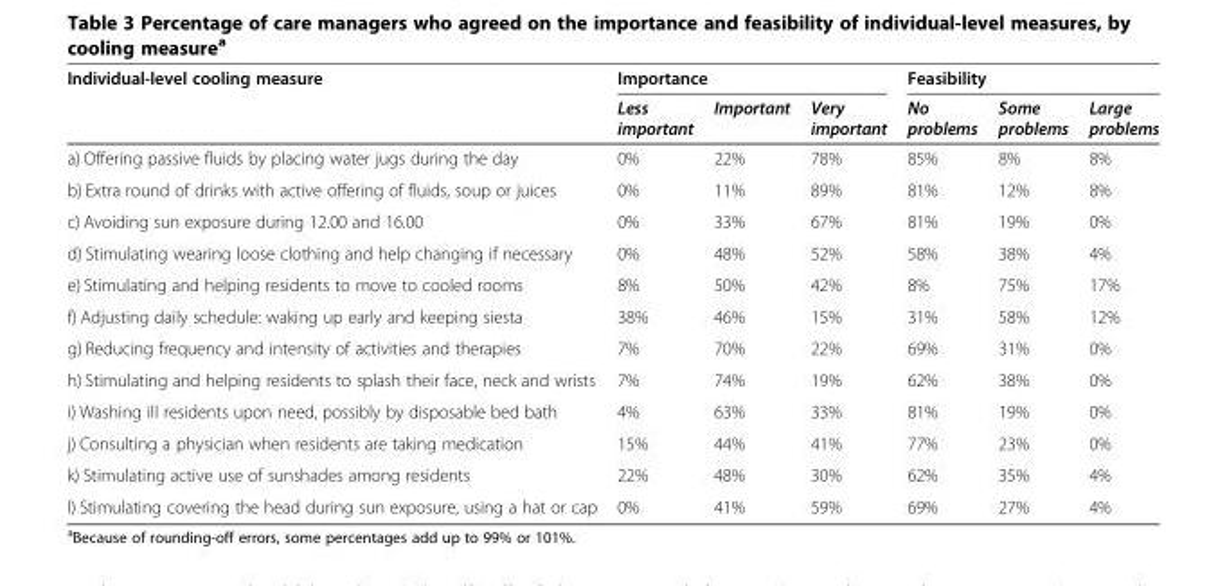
<table><thead><tr><td rowspan="2">Individual-level cooling measure</td><td colspan="3">Importance</td><td colspan="3">Feasibility</td></tr><tr><td>Less important</td><td>Important</td><td>Very important</td><td>No problems</td><td>Some problems</td><td>Large problems</td></tr></thead><tbody><tr><td>a) Offering passive fluids by placing water jugs during the day</td><td>0%</td><td>22%</td><td>78%</td><td>85%</td><td>8%</td><td>8%</td></tr><tr><td>b) Extra round of drinks with active offering of fluids, soup or juices</td><td>0%</td><td>11%</td><td>89%</td><td>81%</td><td>12%</td><td>8%</td></tr><tr><td>c) Avoiding sun exposure during 12.00 and 16.00</td><td>0%</td><td>33%</td><td>67%</td><td>81%</td><td>19%</td><td>0%</td></tr><tr><td>d) Stimulating wearing loose clothing and help changing if necessary</td><td>0%</td><td>48%</td><td>52%</td><td>58%</td><td>38%</td><td>4%</td></tr><tr><td>e) Stimulating and helping residents to move to cooled rooms</td><td>8%</td><td>50%</td><td>42%</td><td>8%</td><td>75%</td><td>17%</td></tr><tr><td>f) Adjusting daily schedule: waking up early and keeping siesta</td><td>38%</td><td>46%</td><td>15%</td><td>31%</td><td>58%</td><td>12%</td></tr><tr><td>g) Reducing frequency and intensity of activities and therapies</td><td>7%</td><td>70%</td><td>22%</td><td>69%</td><td>31%</td><td>0%</td></tr><tr><td>h) Stimulating and helping residents to splash their face, neck and wrists</td><td>7%</td><td>74%</td><td>19%</td><td>62%</td><td>38%</td><td>0%</td></tr><tr><td>i) Washing ill residents upon need, possibly by disposable bed bath</td><td>4%</td><td>63%</td><td>33%</td><td>81%</td><td>19%</td><td>0%</td></tr><tr><td>j) Consulting a physician when residents are taking medication</td><td>15%</td><td>44%</td><td>41%</td><td>77%</td><td>23%</td><td>0%</td></tr><tr><td>k) Stimulating active use of sunshades among residents</td><td>22%</td><td>48%</td><td>30%</td><td>62%</td><td>35%</td><td>4%</td></tr><tr><td>l) Stimulating covering the head during sun exposure, using a hat or cap</td><td>0%</td><td>41%</td><td>59%</td><td>69%</td><td>27%</td><td>4%</td></tr></tbody></table>